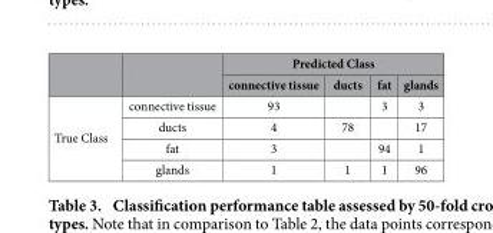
<table><thead><tr><td rowspan="2"></td><td rowspan="2"></td><td colspan="4">Predicted Class</td></tr><tr><td>connective tissue</td><td>ducts</td><td>fat</td><td>glands</td></tr></thead><tbody><tr><td rowspan="4">True Class</td><td>connective tissue</td><td>93</td><td></td><td>3</td><td>3</td></tr><tr><td>ducts</td><td>4</td><td>78</td><td></td><td>17</td></tr><tr><td>fat</td><td>3</td><td></td><td>94</td><td>1</td></tr><tr><td>glands</td><td>1</td><td>1</td><td>1</td><td>96</td></tr></tbody></table>